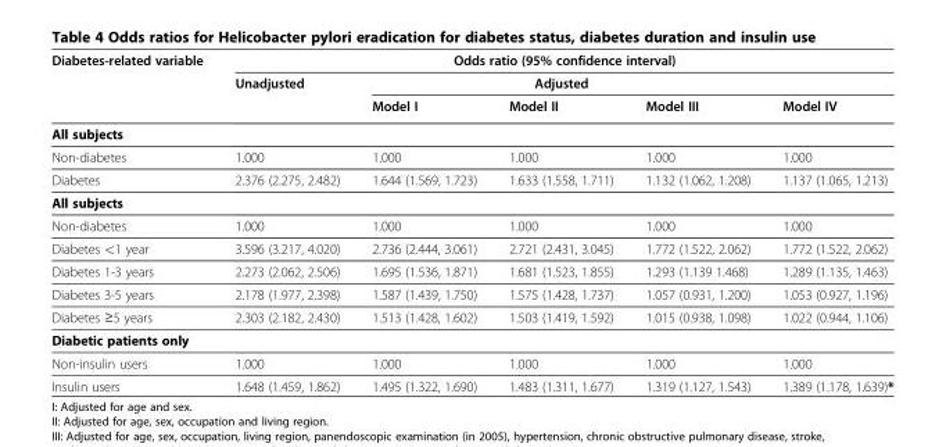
<table><thead><tr><td rowspan="3">Diabetes-related variable</td><td colspan="5">Odds ratio (95% confidence interval)</td></tr><tr><td rowspan="2">Unadjusted</td><td rowspan="2">Model I</td><td rowspan="2">Adjusted Model II</td><td rowspan="2">Model III</td><td rowspan="2">Model IV</td></tr><tr></tr></thead><tbody><tr><td colspan="6">All subjects</td></tr><tr><td>Non-diabetes</td><td>1.000</td><td>1.000</td><td>1.000</td><td>1.000</td><td>1.000</td></tr><tr><td>Diabetes</td><td>2.376 (2.275, 2.482)</td><td>1.644 (1.569, 1.723)</td><td>1.633 (1.558, 1.711)</td><td>1.132 (1.062, 1.208)</td><td>1.137 (1.065, 1.213)</td></tr><tr><td colspan="6">All subjects</td></tr><tr><td>Non-diabetes</td><td>1.000</td><td>1.000</td><td>1.000</td><td>1.000</td><td>1.000</td></tr><tr><td>Diabetes &lt;1 year</td><td>3.596 (3.217, 4.020)</td><td>2.736 (2.444, 3.061)</td><td>2.721 (2.431, 3.045)</td><td>1.772 (1.522, 2.062)</td><td>1.772 (1.522, 2.062)</td></tr><tr><td>Diabetes 1-3 years</td><td>2.273 (2.062, 2.506)</td><td>1.695 (1.536, 1.871)</td><td>1.681 (1.523, 1.855)</td><td>1.293 (1.139 1.468)</td><td>1.289 (1.135, 1.463)</td></tr><tr><td>Diabetes 3-5 years</td><td>2.178 (1.977, 2.398)</td><td>1.587 (1.439, 1.750)</td><td>1.575 (1.428, 1.737)</td><td>1.057 (0.931, 1.200)</td><td>1.053 (0.927, 1.196)</td></tr><tr><td>Diabetes ≥5 years</td><td>2.303 (2.182, 2.430)</td><td>1.513 (1.428, 1.602)</td><td>1.503 (1.419, 1.592)</td><td>1.015 (0.938, 1.098)</td><td>1.022 (0.944, 1.106)</td></tr><tr><td colspan="6">Diabetic patients only</td></tr><tr><td>Non-insulin users</td><td>1.000</td><td>1.000</td><td>1.000</td><td>1.000</td><td>1.000</td></tr><tr><td>Insulin users</td><td>1.648 (1.459, 1.862)</td><td>1.495 (1.322, 1.690)</td><td>1.483 (1.311, 1.677)</td><td>1.319 (1.127, 1.543)</td><td>1.389 (1.178, 1.639)*</td></tr></tbody></table>